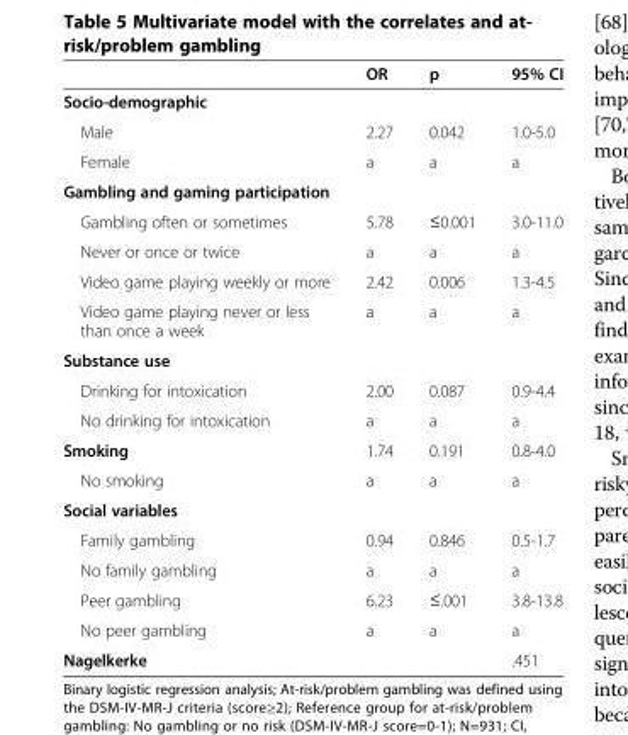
<table><thead><tr><td></td><td>OR</td><td>p</td><td>95% CI</td></tr></thead><tbody><tr><td colspan="4">Socio-demographic</td></tr><tr><td>Male</td><td>2.27</td><td>0.042</td><td>1.0-5.0</td></tr><tr><td>Female</td><td>a</td><td>a</td><td>a</td></tr><tr><td colspan="4">Gambling and gaming participation</td></tr><tr><td>Gambling often or sometimes</td><td>5.78</td><td>≤0.001</td><td>3.0-11.0</td></tr><tr><td>Never or once or twice</td><td>a</td><td>a</td><td>a</td></tr><tr><td>Video game playing weekly or more</td><td>2.42</td><td>0.006</td><td>1.3-4.5</td></tr><tr><td>Video game playing never or less than once a week</td><td>a</td><td>a</td><td>a</td></tr><tr><td colspan="4">Substance use</td></tr><tr><td>Drinking for intoxication</td><td>2.00</td><td>0.087</td><td>0.9-4.4</td></tr><tr><td>No drinking for intoxication</td><td>a</td><td>a</td><td>a</td></tr><tr><td>Smoking</td><td>1.74</td><td>0.191</td><td>0.8-4.0</td></tr><tr><td>No smoking</td><td>a</td><td>a</td><td>a</td></tr><tr><td colspan="4">Social variables</td></tr><tr><td>Family gambling</td><td>0.94</td><td>0.846</td><td>0.5-1.7</td></tr><tr><td>No family gambling</td><td>a</td><td>a</td><td>a</td></tr><tr><td>Peer gambling</td><td>6.23</td><td>≤.001</td><td>3.8-13.8</td></tr><tr><td>No peer gambling</td><td>a</td><td>a</td><td>a</td></tr><tr><td>Nagelkerke</td><td></td><td></td><td>.451</td></tr></tbody></table>